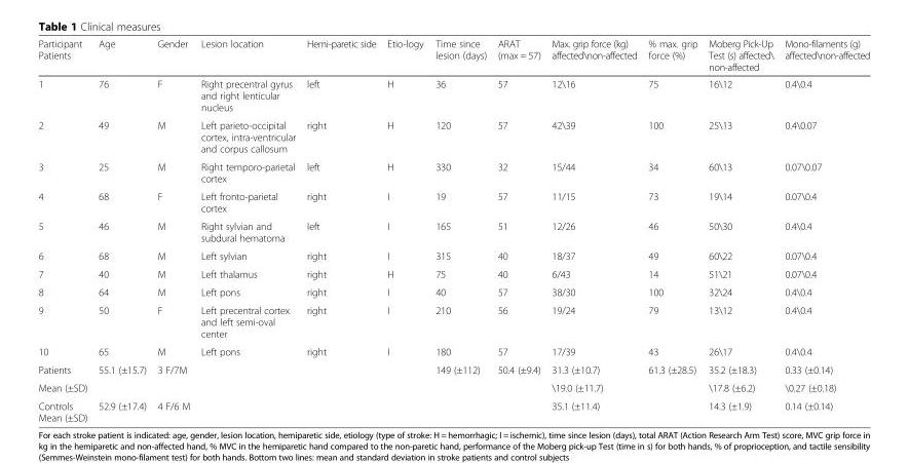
<table><thead><tr><td>Participant Patients</td><td>Age</td><td>Gender</td><td>Lesion location</td><td>Hemi-paretic side</td><td>Etio-logy</td><td>Time since lesion (days)</td><td>ARAT (max = 57)</td><td>Max. grip force (kg) affected\non-affected</td><td>% max. grip force (%)</td><td>Moberg Pick-Up Test (s) affected\ non-affected</td><td>Mono-filaments (g) affected\non-affected</td></tr></thead><tbody><tr><td>1</td><td>76</td><td>F</td><td>Right precentral gyrus and right lenticular nucleus</td><td>left</td><td>H</td><td>36</td><td>57</td><td>12\16</td><td>75</td><td>16\12</td><td>0.4\0.4</td></tr><tr><td>2</td><td>49</td><td>M</td><td>Left parieto-occipital cortex, intra-ventricular and corpus callosum</td><td>right</td><td>H</td><td>120</td><td>57</td><td>42\39</td><td>100</td><td>25\13</td><td>0.4\0.07</td></tr><tr><td>3</td><td>25</td><td>M</td><td>Right temporo-parietal cortex</td><td>left</td><td>H</td><td>330</td><td>32</td><td>15/44</td><td>34</td><td>60\13</td><td>0.07\0.07</td></tr><tr><td>4</td><td>68</td><td>F</td><td>Left fronto-parietal cortex</td><td>right</td><td>I</td><td>19</td><td>57</td><td>11/15</td><td>73</td><td>19\14</td><td>0.07\0.4</td></tr><tr><td>5</td><td>46</td><td>M</td><td>Right sylvian and subdural hematoma</td><td>left</td><td>I</td><td>165</td><td>51</td><td>12/26</td><td>46</td><td>50\30</td><td>0.4\0.4</td></tr><tr><td>6</td><td>68</td><td>M</td><td>Left sylvian</td><td>right</td><td>I</td><td>315</td><td>40</td><td>18/37</td><td>49</td><td>60\22</td><td>0.07\0.4</td></tr><tr><td>7</td><td>40</td><td>M</td><td>Left thalamus</td><td>right</td><td>H</td><td>75</td><td>40</td><td>6/43</td><td>14</td><td>51\21</td><td>0.07\0.4</td></tr><tr><td>8</td><td>64</td><td>M</td><td>Left pons</td><td>right</td><td>I</td><td>40</td><td>57</td><td>38/30</td><td>100</td><td>32\24</td><td>0.4\0.4</td></tr><tr><td>9</td><td>50</td><td>F</td><td>Left precentral cortex and left semi-oval center</td><td>right</td><td>I</td><td>210</td><td>56</td><td>19/24</td><td>79</td><td>13\12</td><td>0.4\0.4</td></tr><tr><td>10</td><td>65</td><td>M</td><td>Left pons</td><td>right</td><td>I</td><td>180</td><td>57</td><td>17/39</td><td>43</td><td>26\17</td><td>0.4\0.4</td></tr><tr><td>Patients</td><td>55.1 (±15.7)</td><td>3 F/7M</td><td></td><td></td><td></td><td>149 (±112)</td><td>50.4 (±9.4)</td><td>31.3 (±10.7)</td><td>61.3 (±28.5)</td><td>35.2 (±18.3)</td><td>0.33 (±0.14)</td></tr><tr><td>Mean (±SD)</td><td></td><td></td><td></td><td></td><td></td><td></td><td></td><td>\19.0 (±11.7)</td><td></td><td>\17.8 (±6.2)</td><td>\0.27 (±0.18)</td></tr><tr><td>Controls Mean (±SD)</td><td>52.9 (±17.4)</td><td>4 F/6 M</td><td></td><td></td><td></td><td></td><td></td><td>35.1 (±11.4)</td><td></td><td>14.3 (±1.9)</td><td>0.14 (±0.14)</td></tr></tbody></table>